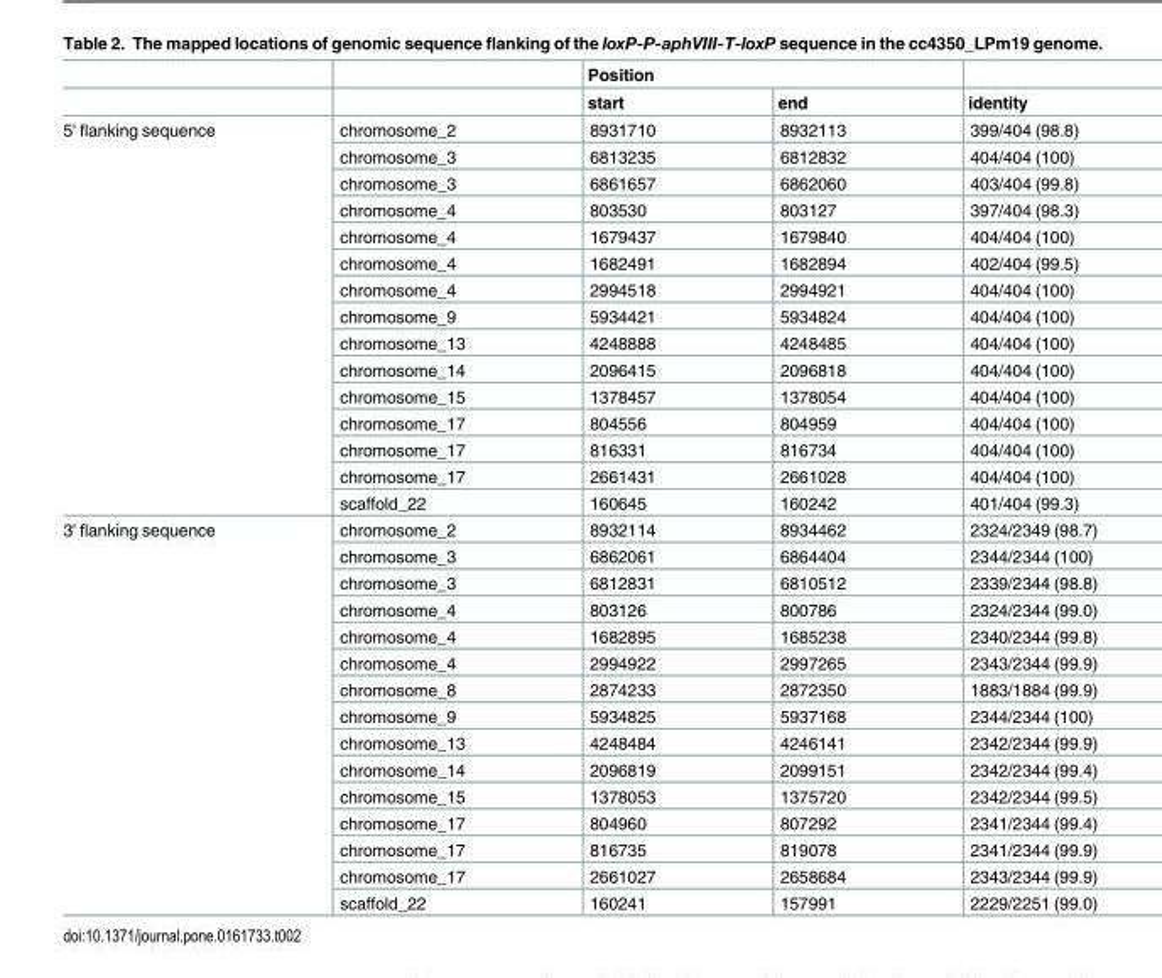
<table><thead><tr><td rowspan="2"></td><td rowspan="2"></td><td colspan="2">Position</td><td rowspan="2">identity</td></tr><tr><td>start</td><td>end</td></tr></thead><tbody><tr><td rowspan="15">5&#x27; flanking sequence</td><td>chromosome_2</td><td>8931710</td><td>8932113</td><td>399/404 (98.8)</td></tr><tr><td>chromosome_3</td><td>6813235</td><td>6812832</td><td>404/404 (100)</td></tr><tr><td>chromosome_3</td><td>6861657</td><td>6862060</td><td>403/404 (99.8)</td></tr><tr><td>chromosome_4</td><td>803530</td><td>803127</td><td>397/404 (98.3)</td></tr><tr><td>chromosome_4</td><td>1679437</td><td>1679840</td><td>404/404 (100)</td></tr><tr><td>chromosome_4</td><td>1682491</td><td>1682894</td><td>402/404 (99.5)</td></tr><tr><td>chromosome_4</td><td>2994518</td><td>2994921</td><td>404/404 (100)</td></tr><tr><td>chromosome_9</td><td>5934421</td><td>5934824</td><td>404/404 (100)</td></tr><tr><td>chromosome_13</td><td>4248888</td><td>4248485</td><td>404/404 (100)</td></tr><tr><td>chromosome_14</td><td>2096415</td><td>2096818</td><td>404/404 (100)</td></tr><tr><td>chromosome_15</td><td>1378457</td><td>1378054</td><td>404/404 (100)</td></tr><tr><td>chromosome_17</td><td>804556</td><td>804959</td><td>404/404 (100)</td></tr><tr><td>chromosome_17</td><td>816331</td><td>816734</td><td>404/404 (100)</td></tr><tr><td>chromosome_17</td><td>2661431</td><td>2661028</td><td>404/404 (100)</td></tr><tr><td>scaffold_22</td><td>160645</td><td>160242</td><td>401/404 (99.3)</td></tr><tr><td rowspan="15">3&#x27; flanking sequence</td><td>chromosome_2</td><td>8932114</td><td>8934462</td><td>2324/2349 (98.7)</td></tr><tr><td>chromosome_3</td><td>6862061</td><td>6864404</td><td>2344/2344 (100)</td></tr><tr><td>chromosome_3</td><td>6812831</td><td>6810512</td><td>2339/2344 (98.8)</td></tr><tr><td>chromosome_4</td><td>803126</td><td>800786</td><td>2324/2344 (99.0)</td></tr><tr><td>chromosome_4</td><td>1682895</td><td>1685238</td><td>2340/2344 (99.8)</td></tr><tr><td>chromosome_4</td><td>2994922</td><td>2997265</td><td>2343/2344 (99.9)</td></tr><tr><td>chromosome_8</td><td>2874233</td><td>2872350</td><td>1883/1884 (99.9)</td></tr><tr><td>chromosome_9</td><td>5934825</td><td>5937168</td><td>2344/2344 (100)</td></tr><tr><td>chromosome_13</td><td>4248484</td><td>4246141</td><td>2342/2344 (99.9)</td></tr><tr><td>chromosome_14</td><td>2096819</td><td>2099151</td><td>2342/2344 (99.4)</td></tr><tr><td>chromosome_15</td><td>1378053</td><td>1375720</td><td>2342/2344 (99.5)</td></tr><tr><td>chromosome_17</td><td>804960</td><td>807292</td><td>2341/2344 (99.4)</td></tr><tr><td>chromosome_17</td><td>816735</td><td>819078</td><td>2341/2344 (99.9)</td></tr><tr><td>chromosome_17</td><td>2661027</td><td>2658684</td><td>2343/2344 (99.9)</td></tr><tr><td>scaffold_22</td><td>160241</td><td>157991</td><td>2229/2251 (99.0)</td></tr></tbody></table>